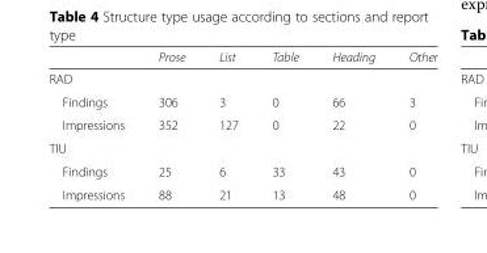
<table><thead><tr><td></td><td>Prose</td><td>List</td><td>Table</td><td>Heading</td><td>Other</td></tr></thead><tbody><tr><td colspan="6">RAD</td></tr><tr><td>Findings</td><td>306</td><td>3</td><td>0</td><td>66</td><td>3</td></tr><tr><td>Impressions</td><td>352</td><td>127</td><td>0</td><td>22</td><td>0</td></tr><tr><td colspan="6">TIU</td></tr><tr><td>Findings</td><td>25</td><td>6</td><td>33</td><td>43</td><td>0</td></tr><tr><td>Impressions</td><td>88</td><td>21</td><td>13</td><td>48</td><td>0</td></tr></tbody></table>